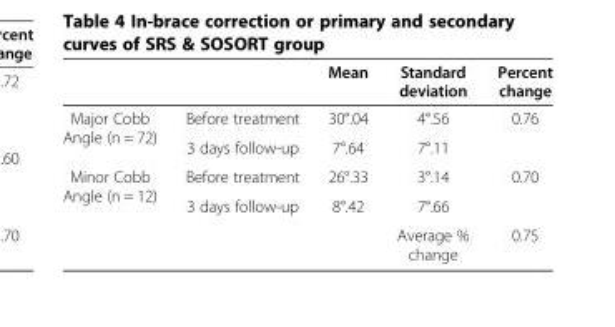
<table><thead><tr><td></td><td></td><td>Mean</td><td>Standard deviation</td><td>Percent change</td></tr></thead><tbody><tr><td rowspan="2">Major Cobb Angle (n = 72)</td><td>Before treatment</td><td>30°.04</td><td>4°.56</td><td rowspan="2">0.76</td></tr><tr><td>3 days follow-up</td><td>7°.64</td><td>7°.11</td></tr><tr><td rowspan="2">Minor Cobb Angle (n = 12)</td><td>Before treatment</td><td>26°.33</td><td>3°.14</td><td rowspan="2">0.70</td></tr><tr><td>3 days follow-up</td><td>8°.42</td><td>7°.66</td></tr><tr><td colspan="3"></td><td>Average % change</td><td>0.75</td></tr></tbody></table>